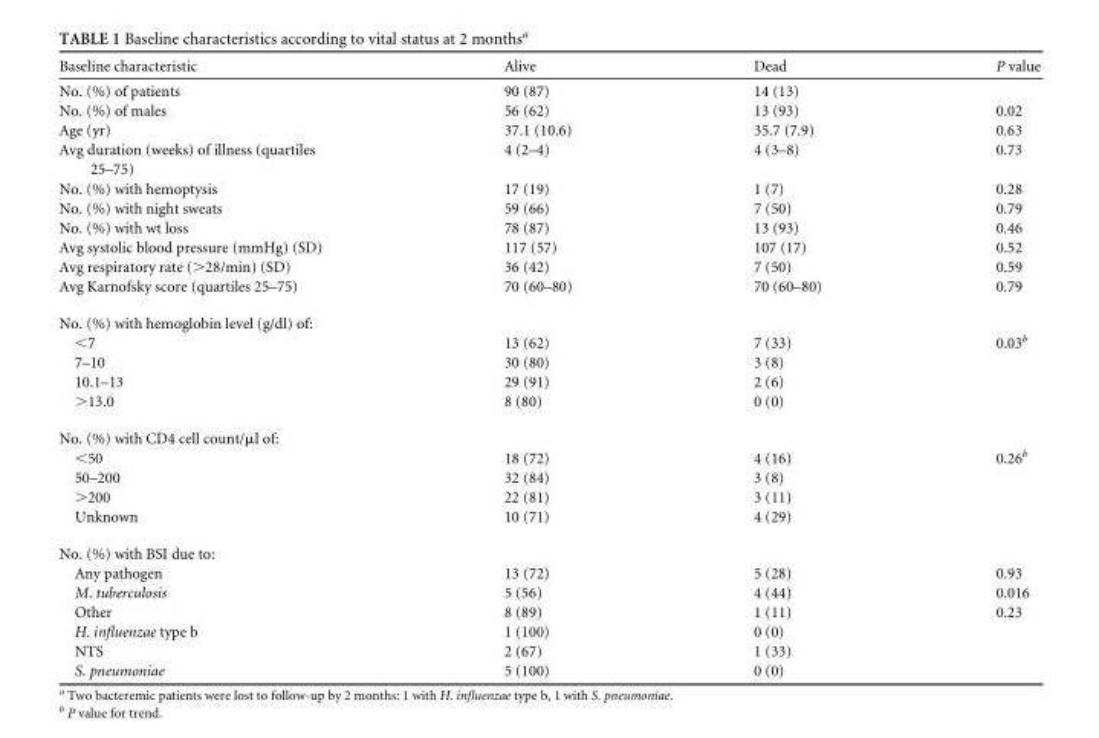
<table><thead><tr><td>Baseline characteristic</td><td>Alive</td><td>Dead</td><td>P value</td></tr></thead><tbody><tr><td>No. (%) of patients</td><td>90 (87)</td><td>14 (13)</td><td></td></tr><tr><td>No. (%) of males</td><td>56 (62)</td><td>13 (93)</td><td>0.02</td></tr><tr><td>Age (yr)</td><td>37.1 (10.6)</td><td>35.7 (7.9)</td><td>0.63</td></tr><tr><td>Avg duration (weeks) of illness (quartiles 25–75)</td><td>4 (2–4)</td><td>4 (3–8)</td><td>0.73</td></tr><tr><td>No. (%) with hemoptysis</td><td>17 (19)</td><td>1 (7)</td><td>0.28</td></tr><tr><td>No. (%) with night sweats</td><td>59 (66)</td><td>7 (50)</td><td>0.79</td></tr><tr><td>No. (%) with wt loss</td><td>78 (87)</td><td>13 (93)</td><td>0.46</td></tr><tr><td>Avg systolic blood pressure (mmHg) (SD)</td><td>117 (57)</td><td>107 (17)</td><td>0.52</td></tr><tr><td>Avg respiratory rate (&gt;28/min) (SD)</td><td>36 (42)</td><td>7 (50)</td><td>0.59</td></tr><tr><td>Avg Karnofsky score (quartiles 25–75)</td><td>70 (60–80)</td><td>70 (60–80)</td><td>0.79</td></tr><tr><td colspan="4">No. (%) with hemoglobin level (g/dl) of:</td></tr><tr><td>&lt;7</td><td>13 (62)</td><td>7 (33)</td><td>0.03<sup>b</sup></td></tr><tr><td>7–10</td><td>30 (80)</td><td>3 (8)</td><td></td></tr><tr><td>10.1–13</td><td>29 (91)</td><td>2 (6)</td><td></td></tr><tr><td>&gt;13.0</td><td>8 (80)</td><td>0 (0)</td><td></td></tr><tr><td colspan="4">No. (%) with CD4 cell count/μl of:</td></tr><tr><td>&lt;50</td><td>18 (72)</td><td>4 (16)</td><td>0.26<sup>b</sup></td></tr><tr><td>50–200</td><td>32 (84)</td><td>3 (8)</td><td></td></tr><tr><td>&gt;200</td><td>22 (81)</td><td>3 (11)</td><td></td></tr><tr><td>Unknown</td><td>10 (71)</td><td>4 (29)</td><td></td></tr><tr><td colspan="4">No. (%) with BSI due to:</td></tr><tr><td>Any pathogen</td><td>13 (72)</td><td>5 (28)</td><td>0.93</td></tr><tr><td>M. tuberculosis</td><td>5 (56)</td><td>4 (44)</td><td>0.016</td></tr><tr><td>Other</td><td>8 (89)</td><td>1 (11)</td><td>0.23</td></tr><tr><td>H. influenzae type b</td><td>1 (100)</td><td>0 (0)</td><td></td></tr><tr><td>NTS</td><td>2 (67)</td><td>1 (33)</td><td></td></tr><tr><td>S. pneumoniae</td><td>5 (100)</td><td>0 (0)</td><td></td></tr></tbody></table>